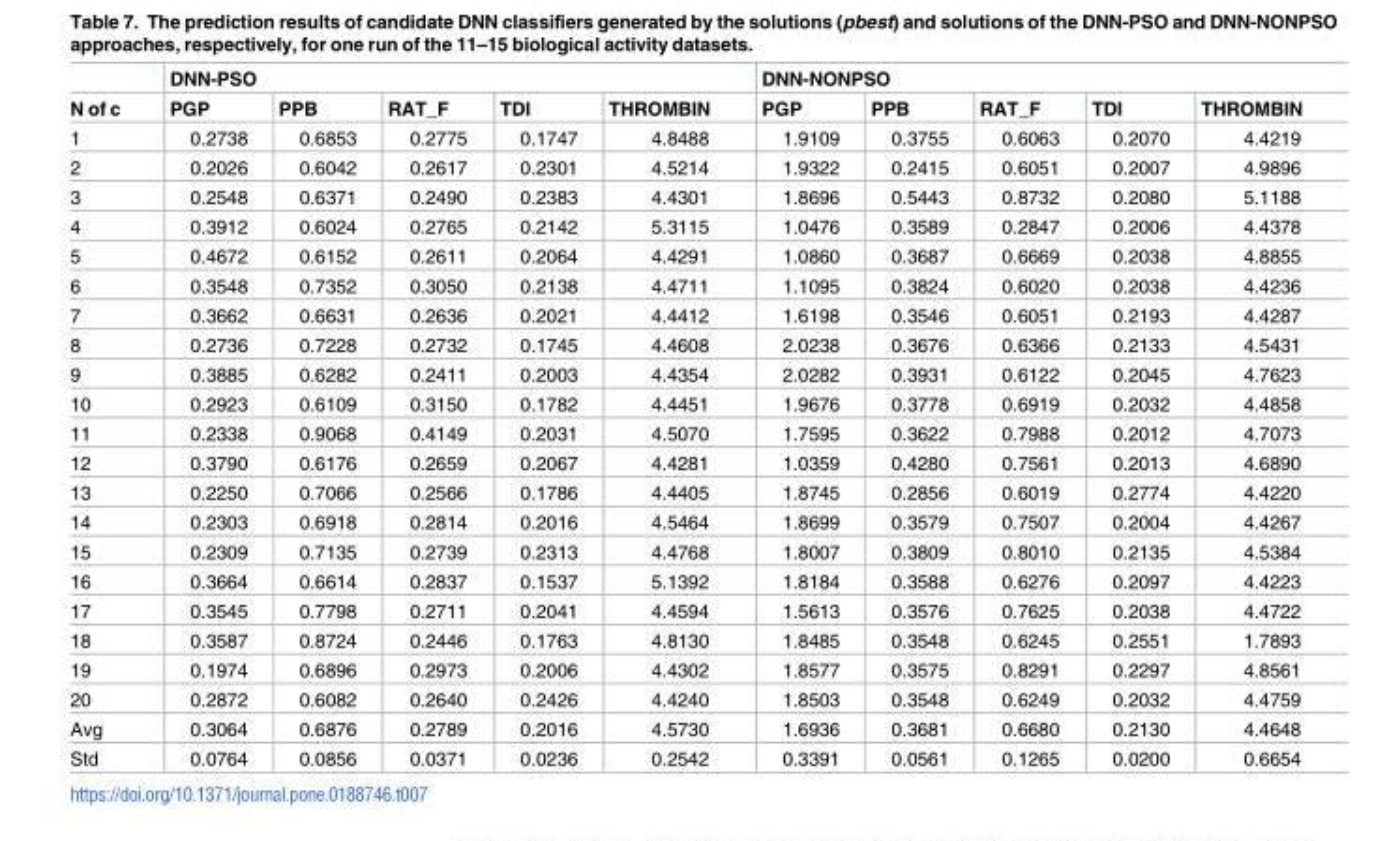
<table><thead><tr><td rowspan="2">N of c</td><td colspan="5">DNN-PSO</td><td colspan="5">DNN-NONPSO</td></tr><tr><td>PGP</td><td>PPB</td><td>RAT_F</td><td>TDI</td><td>THROMBIN</td><td>PGP</td><td>PPB</td><td>RAT_F</td><td>TDI</td><td>THROMBIN</td></tr></thead><tbody><tr><td>1</td><td>0.2738</td><td>0.6853</td><td>0.2775</td><td>0.1747</td><td>4.8488</td><td>1.9109</td><td>0.3755</td><td>0.6063</td><td>0.2070</td><td>4.4219</td></tr><tr><td>2</td><td>0.2026</td><td>0.6042</td><td>0.2617</td><td>0.2301</td><td>4.5214</td><td>1.9322</td><td>0.2415</td><td>0.6051</td><td>0.2007</td><td>4.9896</td></tr><tr><td>3</td><td>0.2548</td><td>0.6371</td><td>0.2490</td><td>0.2383</td><td>4.4301</td><td>1.8696</td><td>0.5443</td><td>0.8732</td><td>0.2080</td><td>5.1188</td></tr><tr><td>4</td><td>0.3912</td><td>0.6024</td><td>0.2765</td><td>0.2142</td><td>5.3115</td><td>1.0476</td><td>0.3589</td><td>0.2847</td><td>0.2006</td><td>4.4378</td></tr><tr><td>5</td><td>0.4672</td><td>0.6152</td><td>0.2611</td><td>0.2064</td><td>4.4291</td><td>1.0860</td><td>0.3687</td><td>0.6669</td><td>0.2038</td><td>4.8855</td></tr><tr><td>6</td><td>0.3548</td><td>0.7352</td><td>0.3050</td><td>0.2138</td><td>4.4711</td><td>1.1095</td><td>0.3824</td><td>0.6020</td><td>0.2038</td><td>4.4236</td></tr><tr><td>7</td><td>0.3662</td><td>0.6631</td><td>0.2636</td><td>0.2021</td><td>4.4412</td><td>1.6198</td><td>0.3546</td><td>0.6051</td><td>0.2193</td><td>4.4287</td></tr><tr><td>8</td><td>0.2736</td><td>0.7228</td><td>0.2732</td><td>0.1745</td><td>4.4608</td><td>2.0238</td><td>0.3676</td><td>0.6366</td><td>0.2133</td><td>4.5431</td></tr><tr><td>9</td><td>0.3885</td><td>0.6282</td><td>0.2411</td><td>0.2003</td><td>4.4354</td><td>2.0282</td><td>0.3931</td><td>0.6122</td><td>0.2045</td><td>4.7623</td></tr><tr><td>10</td><td>0.2923</td><td>0.6109</td><td>0.3150</td><td>0.1782</td><td>4.4451</td><td>1.9676</td><td>0.3778</td><td>0.6919</td><td>0.2032</td><td>4.4858</td></tr><tr><td>11</td><td>0.2338</td><td>0.9068</td><td>0.4149</td><td>0.2031</td><td>4.5070</td><td>1.7595</td><td>0.3622</td><td>0.7988</td><td>0.2012</td><td>4.7073</td></tr><tr><td>12</td><td>0.3790</td><td>0.6176</td><td>0.2659</td><td>0.2067</td><td>4.4281</td><td>1.0359</td><td>0.4280</td><td>0.7561</td><td>0.2013</td><td>4.6890</td></tr><tr><td>13</td><td>0.2250</td><td>0.7066</td><td>0.2566</td><td>0.1786</td><td>4.4405</td><td>1.8745</td><td>0.2856</td><td>0.6019</td><td>0.2774</td><td>4.4220</td></tr><tr><td>14</td><td>0.2303</td><td>0.6918</td><td>0.2814</td><td>0.2016</td><td>4.5464</td><td>1.8699</td><td>0.3579</td><td>0.7507</td><td>0.2004</td><td>4.4267</td></tr><tr><td>15</td><td>0.2309</td><td>0.7135</td><td>0.2739</td><td>0.2313</td><td>4.4768</td><td>1.8007</td><td>0.3809</td><td>0.8010</td><td>0.2135</td><td>4.5384</td></tr><tr><td>16</td><td>0.3664</td><td>0.6614</td><td>0.2837</td><td>0.1537</td><td>5.1392</td><td>1.8184</td><td>0.3588</td><td>0.6276</td><td>0.2097</td><td>4.4223</td></tr><tr><td>17</td><td>0.3545</td><td>0.7798</td><td>0.2711</td><td>0.2041</td><td>4.4594</td><td>1.5613</td><td>0.3576</td><td>0.7625</td><td>0.2038</td><td>4.4722</td></tr><tr><td>18</td><td>0.3587</td><td>0.8724</td><td>0.2446</td><td>0.1763</td><td>4.8130</td><td>1.8485</td><td>0.3548</td><td>0.6245</td><td>0.2551</td><td>1.7893</td></tr><tr><td>19</td><td>0.1974</td><td>0.6896</td><td>0.2973</td><td>0.2006</td><td>4.4302</td><td>1.8577</td><td>0.3575</td><td>0.8291</td><td>0.2297</td><td>4.8561</td></tr><tr><td>20</td><td>0.2872</td><td>0.6082</td><td>0.2640</td><td>0.2426</td><td>4.4240</td><td>1.8503</td><td>0.3548</td><td>0.6249</td><td>0.2032</td><td>4.4759</td></tr><tr><td>Avg</td><td>0.3064</td><td>0.6876</td><td>0.2789</td><td>0.2016</td><td>4.5730</td><td>1.6936</td><td>0.3681</td><td>0.6680</td><td>0.2130</td><td>4.4648</td></tr><tr><td>Std</td><td>0.0764</td><td>0.0856</td><td>0.0371</td><td>0.0236</td><td>0.2542</td><td>0.3391</td><td>0.0561</td><td>0.1265</td><td>0.0200</td><td>0.6654</td></tr></tbody></table>